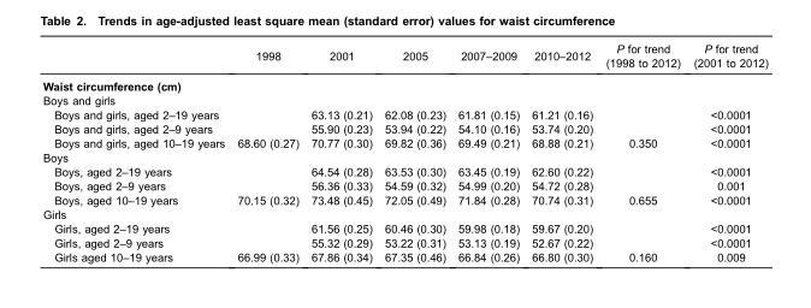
<table><thead><tr><td></td><td>1998</td><td>2001</td><td>2005</td><td>2007–2009</td><td>2010–2012</td><td>P for trend (1998 to 2012)</td><td>P for trend (2001 to 2012)</td></tr></thead><tbody><tr><td colspan="8">Waist circumference (cm)</td></tr><tr><td colspan="8">Boys and girls</td></tr><tr><td>Boys and girls, aged 2–19 years</td><td></td><td>63.13 (0.21)</td><td>62.08 (0.23)</td><td>61.81 (0.15)</td><td>61.21 (0.16)</td><td></td><td>&lt;0.0001</td></tr><tr><td>Boys and girls, aged 2–9 years</td><td></td><td>55.90 (0.23)</td><td>53.94 (0.22)</td><td>54.10 (0.16)</td><td>53.74 (0.20)</td><td></td><td>&lt;0.0001</td></tr><tr><td>Boys and girls, aged 10–19 years</td><td>68.60 (0.27)</td><td>70.77 (0.30)</td><td>69.82 (0.36)</td><td>69.49 (0.21)</td><td>68.88 (0.21)</td><td>0.350</td><td>&lt;0.0001</td></tr><tr><td colspan="8">Boys</td></tr><tr><td>Boys, aged 2–19 years</td><td></td><td>64.54 (0.28)</td><td>63.53 (0.30)</td><td>63.45 (0.19)</td><td>62.60 (0.22)</td><td></td><td>&lt;0.0001</td></tr><tr><td>Boys, aged 2–9 years</td><td></td><td>56.36 (0.33)</td><td>54.59 (0.32)</td><td>54.99 (0.20)</td><td>54.72 (0.28)</td><td></td><td>0.001</td></tr><tr><td>Boys, aged 10–19 years</td><td>70.15 (0.32)</td><td>73.48 (0.45)</td><td>72.05 (0.49)</td><td>71.84 (0.28)</td><td>70.74 (0.31)</td><td>0.655</td><td>&lt;0.0001</td></tr><tr><td colspan="8">Girls</td></tr><tr><td>Girls, aged 2–19 years</td><td></td><td>61.56 (0.25)</td><td>60.46 (0.30)</td><td>59.98 (0.18)</td><td>59.67 (0.20)</td><td></td><td>&lt;0.0001</td></tr><tr><td>Girls, aged 2–9 years</td><td></td><td>55.32 (0.29)</td><td>53.22 (0.31)</td><td>53.13 (0.19)</td><td>52.67 (0.22)</td><td></td><td>&lt;0.0001</td></tr><tr><td>Girls aged 10–19 years</td><td>66.99 (0.33)</td><td>67.86 (0.34)</td><td>67.35 (0.46)</td><td>66.84 (0.26)</td><td>66.80 (0.30)</td><td>0.160</td><td>0.009</td></tr></tbody></table>